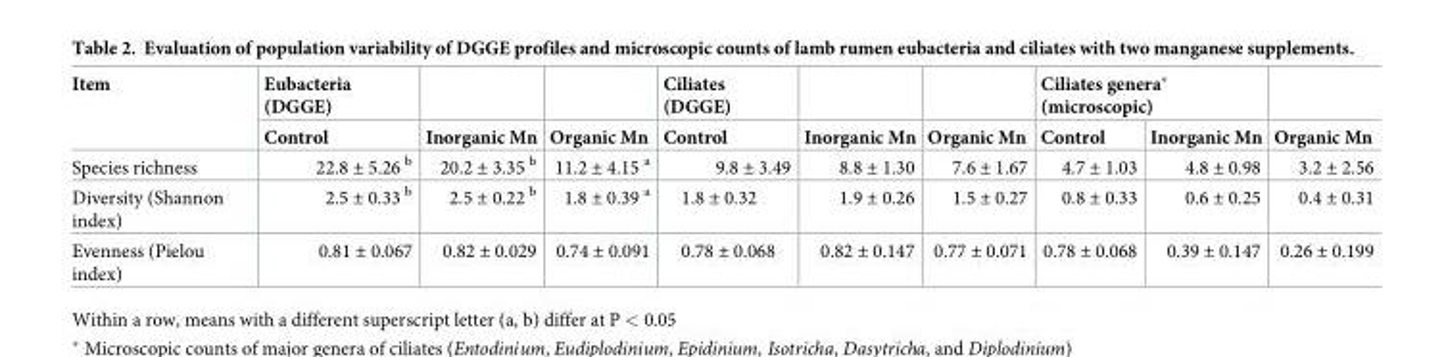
<table><thead><tr><td rowspan="2">Item</td><td rowspan="2">Eubacteria (DGGE) Control</td><td rowspan="2">Inorganic Mn</td><td rowspan="2">Organic Mn</td><td rowspan="2">Ciliates (DGGE) Control</td><td rowspan="2">Inorganic Mn</td><td rowspan="2">Organic Mn</td><td colspan="2">Ciliates genera* (microscopic)</td><td rowspan="2">Organic Mn</td></tr><tr><td>Control</td><td>Inorganic Mn</td></tr></thead><tbody><tr><td>Species richness</td><td>22.8 ± 5.26 <sup>b</sup></td><td>20.2 ± 3.35 <sup>b</sup></td><td>11.2 ± 4.15 <sup>a</sup></td><td>9.8 ± 3.49</td><td>8.8 ± 1.30</td><td>7.6 ± 1.67</td><td>4.7 ± 1.03</td><td>4.8 ± 0.98</td><td>3.2 ± 2.56</td></tr><tr><td>Diversity (Shannon index)</td><td>2.5 ± 0.33 <sup>b</sup></td><td>2.5 ± 0.22 <sup>b</sup></td><td>1.8 ± 0.39 <sup>a</sup></td><td>1.8 ± 0.32</td><td>1.9 ± 0.26</td><td>1.5 ± 0.27</td><td>0.8 ± 0.33</td><td>0.6 ± 0.25</td><td>0.4 ± 0.31</td></tr><tr><td>Evenness (Pielou index)</td><td>0.81 ± 0.067</td><td>0.82 ± 0.029</td><td>0.74 ± 0.091</td><td>0.78 ± 0.068</td><td>0.82 ± 0.147</td><td>0.77 ± 0.071</td><td>0.78 ± 0.068</td><td>0.39 ± 0.147</td><td>0.26 ± 0.199</td></tr></tbody></table>